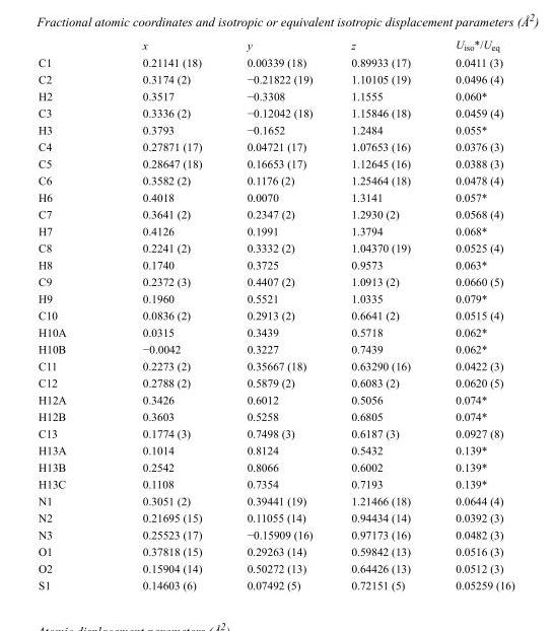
<table><thead><tr><td></td><td>x</td><td>y</td><td>z</td><td>U<sub>iso</sub>*/U<sub>eq</sub></td></tr></thead><tbody><tr><td>C1</td><td>0.21141 (18)</td><td>0.00339 (18)</td><td>0.89933 (17)</td><td>0.0411 (3)</td></tr><tr><td>C2</td><td>0.3174 (2)</td><td>−0.21822 (19)</td><td>1.10105 (19)</td><td>0.0496 (4)</td></tr><tr><td>H2</td><td>0.3517</td><td>−0.3308</td><td>1.1555</td><td>0.060*</td></tr><tr><td>C3</td><td>0.3336 (2)</td><td>−0.12042 (18)</td><td>1.15846 (18)</td><td>0.0459 (4)</td></tr><tr><td>H3</td><td>0.3793</td><td>−0.1652</td><td>1.2484</td><td>0.055*</td></tr><tr><td>C4</td><td>0.27871 (17)</td><td>0.04721 (17)</td><td>1.07653 (16)</td><td>0.0376 (3)</td></tr><tr><td>C5</td><td>0.28647 (18)</td><td>0.16653 (17)</td><td>1.12645 (16)</td><td>0.0388 (3)</td></tr><tr><td>C6</td><td>0.3582 (2)</td><td>0.1176 (2)</td><td>1.25464 (18)</td><td>0.0478 (4)</td></tr><tr><td>H6</td><td>0.4018</td><td>0.0070</td><td>1.3141</td><td>0.057*</td></tr><tr><td>C7</td><td>0.3641 (2)</td><td>0.2347 (2)</td><td>1.2930 (2)</td><td>0.0568 (4)</td></tr><tr><td>H7</td><td>0.4126</td><td>0.1991</td><td>1.3794</td><td>0.068*</td></tr><tr><td>C8</td><td>0.2241 (2)</td><td>0.3332 (2)</td><td>1.04370 (19)</td><td>0.0525 (4)</td></tr><tr><td>H8</td><td>0.1740</td><td>0.3725</td><td>0.9573</td><td>0.063*</td></tr><tr><td>C9</td><td>0.2372 (3)</td><td>0.4407 (2)</td><td>1.0913 (2)</td><td>0.0660 (5)</td></tr><tr><td>H9</td><td>0.1960</td><td>0.5521</td><td>1.0335</td><td>0.079*</td></tr><tr><td>C10</td><td>0.0836 (2)</td><td>0.2913 (2)</td><td>0.6641 (2)</td><td>0.0515 (4)</td></tr><tr><td>H10A</td><td>0.0315</td><td>0.3439</td><td>0.5718</td><td>0.062*</td></tr><tr><td>H10B</td><td>−0.0042</td><td>0.3227</td><td>0.7439</td><td>0.062*</td></tr><tr><td>C11</td><td>0.2273 (2)</td><td>0.35667 (18)</td><td>0.63290 (16)</td><td>0.0422 (3)</td></tr><tr><td>C12</td><td>0.2788 (2)</td><td>0.5879 (2)</td><td>0.6083 (2)</td><td>0.0620 (5)</td></tr><tr><td>H12A</td><td>0.3426</td><td>0.6012</td><td>0.5056</td><td>0.074*</td></tr><tr><td>H12B</td><td>0.3603</td><td>0.5258</td><td>0.6805</td><td>0.074*</td></tr><tr><td>C13</td><td>0.1774 (3)</td><td>0.7498 (3)</td><td>0.6187 (3)</td><td>0.0927 (8)</td></tr><tr><td>H13A</td><td>0.1014</td><td>0.8124</td><td>0.5432</td><td>0.139*</td></tr><tr><td>H13B</td><td>0.2542</td><td>0.8066</td><td>0.6002</td><td>0.139*</td></tr><tr><td>H13C</td><td>0.1108</td><td>0.7354</td><td>0.7193</td><td>0.139*</td></tr><tr><td>N1</td><td>0.3051 (2)</td><td>0.39441 (19)</td><td>1.21466 (18)</td><td>0.0644 (4)</td></tr><tr><td>N2</td><td>0.21695 (15)</td><td>0.11055 (14)</td><td>0.94434 (14)</td><td>0.0392 (3)</td></tr><tr><td>N3</td><td>0.25523 (17)</td><td>−0.15909 (16)</td><td>0.97173 (16)</td><td>0.0482 (3)</td></tr><tr><td>O1</td><td>0.37818 (15)</td><td>0.29263 (14)</td><td>0.59842 (13)</td><td>0.0516 (3)</td></tr><tr><td>O2</td><td>0.15904 (14)</td><td>0.50272 (13)</td><td>0.64426 (13)</td><td>0.0512 (3)</td></tr><tr><td>S1</td><td>0.14603 (6)</td><td>0.07492 (5)</td><td>0.72151 (5)</td><td>0.05259 (16)</td></tr></tbody></table>